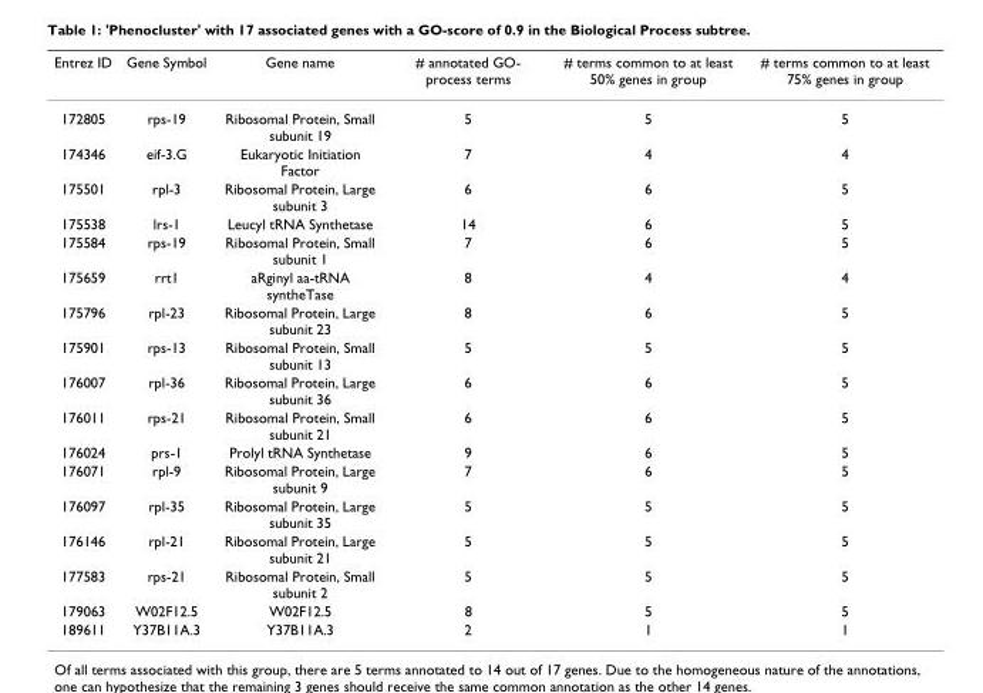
<table><thead><tr><td>Entrez ID</td><td>Gene Symbol</td><td>Gene name</td><td># annotated GO- process terms</td><td># terms common to at least 50% genes in group</td><td># terms common to at least 75% genes in group</td></tr></thead><tbody><tr><td>172805</td><td>rps-19</td><td>Ribosomal Protein, Small subunit 19</td><td>5</td><td>5</td><td>5</td></tr><tr><td>174346</td><td>eif-3.G</td><td>Eukaryotic Initiation Factor</td><td>7</td><td>4</td><td>4</td></tr><tr><td>175501</td><td>rpl-3</td><td>Ribosomal Protein, Large subunit 3</td><td>6</td><td>6</td><td>5</td></tr><tr><td>175538</td><td>lrs-1</td><td>Leucyl tRNA Synthetase</td><td>14</td><td>6</td><td>5</td></tr><tr><td>175584</td><td>rps-19</td><td>Ribosomal Protein, Small subunit 1</td><td>7</td><td>6</td><td>5</td></tr><tr><td>175659</td><td>rrt1</td><td>aRginyl aa-tRNA syntheTase</td><td>8</td><td>4</td><td>4</td></tr><tr><td>175796</td><td>rpl-23</td><td>Ribosomal Protein, Large subunit 23</td><td>8</td><td>6</td><td>5</td></tr><tr><td>175901</td><td>rps-13</td><td>Ribosomal Protein, Small subunit 13</td><td>5</td><td>5</td><td>5</td></tr><tr><td>176007</td><td>rpl-36</td><td>Ribosomal Protein, Large subunit 36</td><td>6</td><td>6</td><td>5</td></tr><tr><td>176011</td><td>rps-21</td><td>Ribosomal Protein, Small subunit 21</td><td>6</td><td>6</td><td>5</td></tr><tr><td>176024</td><td>prs-1</td><td>Prolyl tRNA Synthetase</td><td>9</td><td>6</td><td>5</td></tr><tr><td>176071</td><td>rpl-9</td><td>Ribosomal Protein, Large subunit 9</td><td>7</td><td>6</td><td>5</td></tr><tr><td>176097</td><td>rpl-35</td><td>Ribosomal Protein, Large subunit 35</td><td>5</td><td>5</td><td>5</td></tr><tr><td>176146</td><td>rpl-21</td><td>Ribosomal Protein, Large subunit 21</td><td>5</td><td>5</td><td>5</td></tr><tr><td>177583</td><td>rps-21</td><td>Ribosomal Protein, Small subunit 2</td><td>5</td><td>5</td><td>5</td></tr><tr><td>179063</td><td>W02F12.5</td><td>W02F12.5</td><td>8</td><td>5</td><td>5</td></tr><tr><td>189611</td><td>Y37B11A.3</td><td>Y37B11A.3</td><td>2</td><td>1</td><td>1</td></tr></tbody></table>